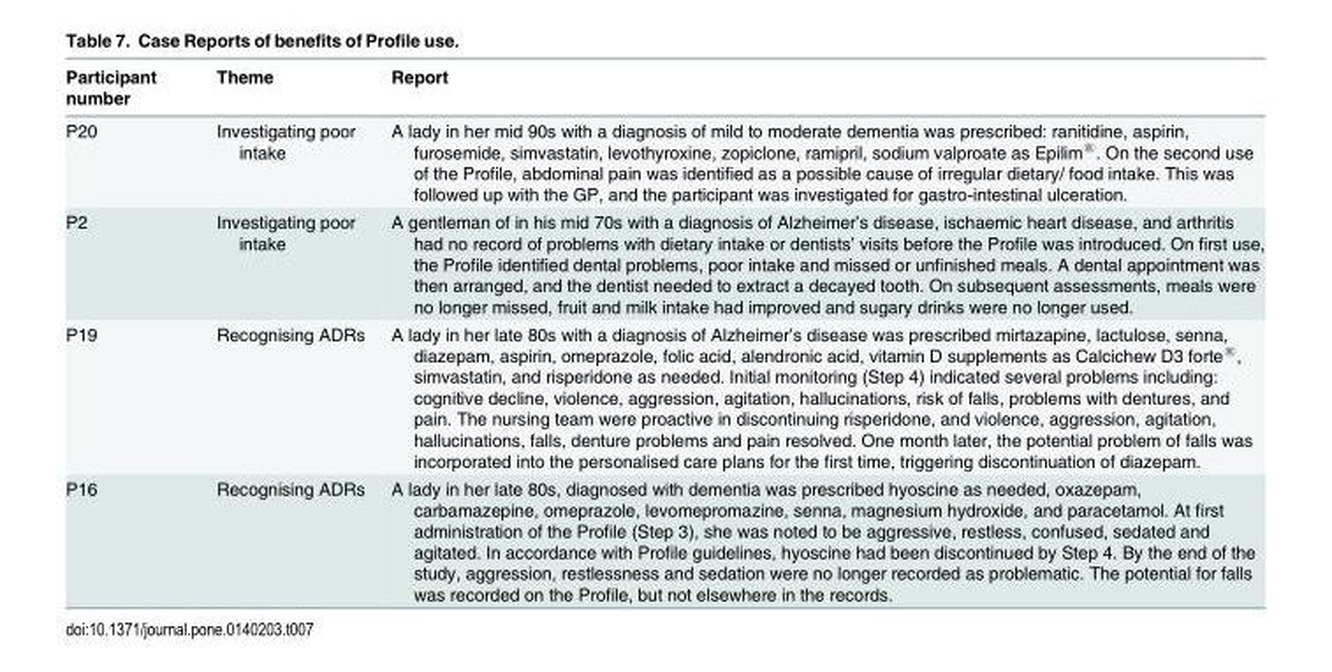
<table><thead><tr><td>Participant number</td><td>Theme</td><td>Report</td></tr></thead><tbody><tr><td>P20</td><td>Investigating poor intake</td><td>A lady in her mid 90s with a diagnosis of mild to moderate dementia was prescribed: ranitidine, aspirin, furosemide, simvastatin, levothyroxine, zopiclone, ramipril, sodium valproate as Epilim<sup>®</sup>. On the second use of the Profile, abdominal pain was identified as a possible cause of irregular dietary/ food intake. This was followed up with the GP, and the participant was investigated for gastro-intestinal ulceration.</td></tr><tr><td>P2</td><td>Investigating poor intake</td><td>A gentleman of in his mid 70s with a diagnosis of Alzheimer’s disease, ischaemic heart disease, and arthritis had no record of problems with dietary intake or dentists’ visits before the Profile was introduced. On first use, the Profile identified dental problems, poor intake and missed or unfinished meals. A dental appointment was then arranged, and the dentist needed to extract a decayed tooth. On subsequent assessments, meals were no longer missed, fruit and milk intake had improved and sugary drinks were no longer used.</td></tr><tr><td>P19</td><td>Recognising ADRs</td><td>A lady in her late 80s with a diagnosis of Alzheimer’s disease was prescribed mirtazapine, lactulose, senna, diazepam, aspirin, omeprazole, folic acid, alendronic acid, vitamin D supplements as Calcichew D3 forte<sup>®</sup>, simvastatin, and risperidone as needed. Initial monitoring (Step 4) indicated several problems including: cognitive decline, violence, aggression, agitation, hallucinations, risk of falls, problems with dentures, and pain. The nursing team were proactive in discontinuing risperidone, and violence, aggression, agitation, hallucinations, falls, denture problems and pain resolved. One month later, the potential problem of falls was incorporated into the personalised care plans for the first time, triggering discontinuation of diazepam.</td></tr><tr><td>P16</td><td>Recognising ADRs</td><td>A lady in her late 80s, diagnosed with dementia was prescribed hyoscine as needed, oxazepam, carbamazepine, omeprazole, levomepromazine, senna, magnesium hydroxide, and paracetamol. At first administration of the Profile (Step 3), she was noted to be aggressive, restless, confused, sedated and agitated. In accordance with Profile guidelines, hyoscine had been discontinued by Step 4. By the end of the study, aggression, restlessness and sedation were no longer recorded as problematic. The potential for falls was recorded on the Profile, but not elsewhere in the records.</td></tr></tbody></table>